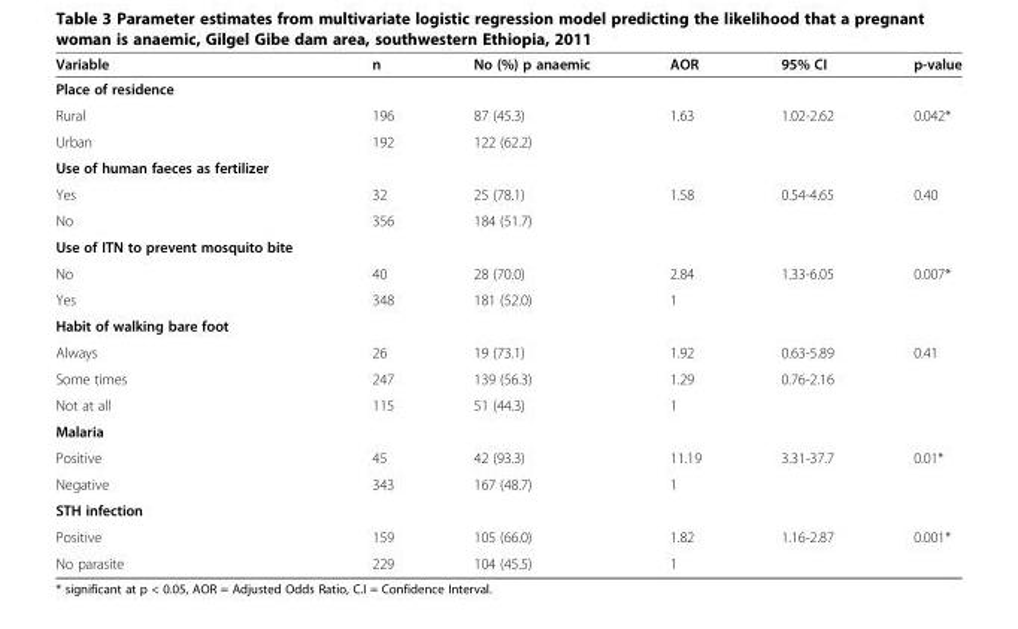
<table><thead><tr><td>Variable</td><td>n</td><td>No (%) p anaemic</td><td>AOR</td><td>95% CI</td><td>p-value</td></tr></thead><tbody><tr><td colspan="6">Place of residence</td></tr><tr><td>Rural</td><td>196</td><td>87 (45.3)</td><td>1.63</td><td>1.02-2.62</td><td>0.042*</td></tr><tr><td>Urban</td><td>192</td><td>122 (62.2)</td><td></td><td></td><td></td></tr><tr><td colspan="6">Use of human faeces as fertilizer</td></tr><tr><td>Yes</td><td>32</td><td>25 (78.1)</td><td>1.58</td><td>0.54-4.65</td><td>0.40</td></tr><tr><td>No</td><td>356</td><td>184 (51.7)</td><td></td><td></td><td></td></tr><tr><td colspan="6">Use of ITN to prevent mosquito bite</td></tr><tr><td>No</td><td>40</td><td>28 (70.0)</td><td>2.84</td><td>1.33-6.05</td><td>0.007*</td></tr><tr><td>Yes</td><td>348</td><td>181 (52.0)</td><td>1</td><td></td><td></td></tr><tr><td colspan="6">Habit of walking bare foot</td></tr><tr><td>Always</td><td>26</td><td>19 (73.1)</td><td>1.92</td><td>0.63-5.89</td><td>0.41</td></tr><tr><td>Some times</td><td>247</td><td>139 (56.3)</td><td>1.29</td><td>0.76-2.16</td><td></td></tr><tr><td>Not at all</td><td>115</td><td>51 (44.3)</td><td>1</td><td></td><td></td></tr><tr><td colspan="6">Malaria</td></tr><tr><td>Positive</td><td>45</td><td>42 (93.3)</td><td>11.19</td><td>3.31-37.7</td><td>0.01*</td></tr><tr><td>Negative</td><td>343</td><td>167 (48.7)</td><td>1</td><td></td><td></td></tr><tr><td colspan="6">STH infection</td></tr><tr><td>Positive</td><td>159</td><td>105 (66.0)</td><td>1.82</td><td>1.16-2.87</td><td>0.001*</td></tr><tr><td>No parasite</td><td>229</td><td>104 (45.5)</td><td>1</td><td></td><td></td></tr></tbody></table>